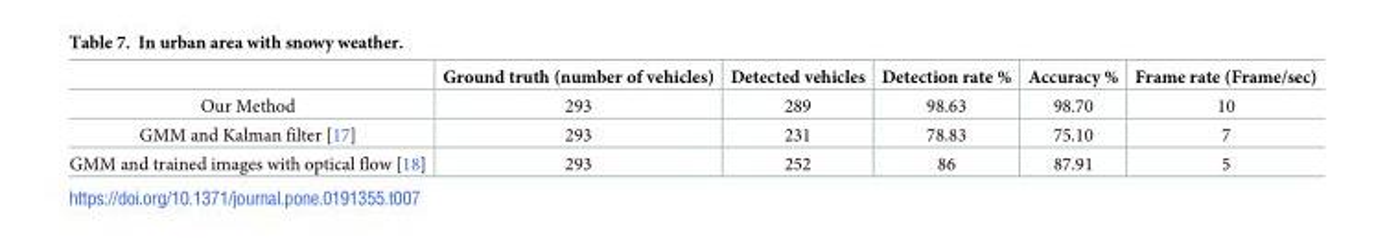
<table><thead><tr><td></td><td>Ground truth (number of vehicles)</td><td>Detected vehicles</td><td>Detection rate %</td><td>Accuracy %</td><td>Frame rate (Frame/sec)</td></tr></thead><tbody><tr><td>Our Method</td><td>293</td><td>289</td><td>98.63</td><td>98.70</td><td>10</td></tr><tr><td>GMM and Kalman filter [17]</td><td>293</td><td>231</td><td>78.83</td><td>75.10</td><td>7</td></tr><tr><td>GMM and trained images with optical flow [18]</td><td>293</td><td>252</td><td>86</td><td>87.91</td><td>5</td></tr></tbody></table>